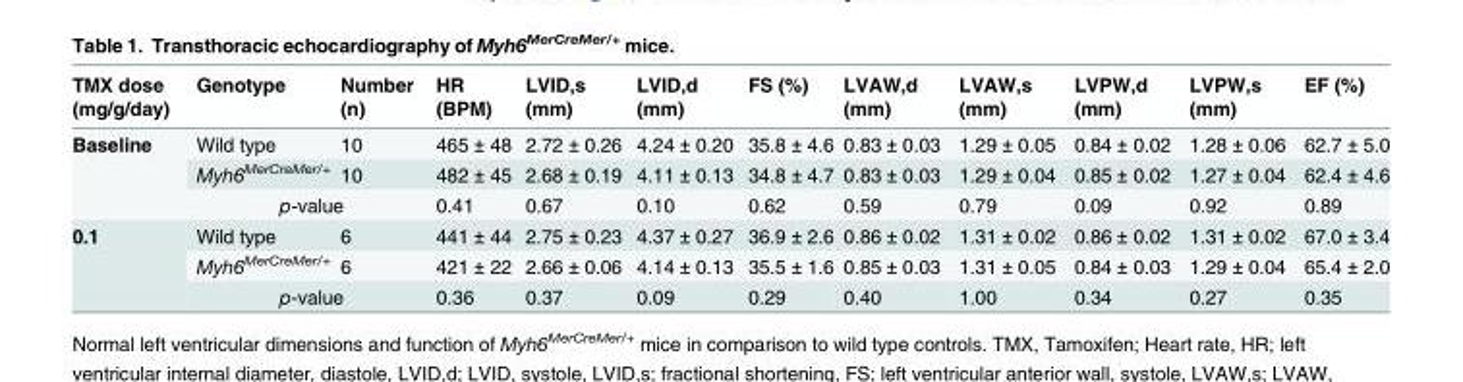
<table><thead><tr><td>TMX dose (mg/g/day)</td><td>Genotype</td><td>Number (n)</td><td>HR (BPM)</td><td>LVID,s (mm)</td><td>LVID,d (mm)</td><td>FS (%)</td><td>LVAW,d (mm)</td><td>LVAW,s (mm)</td><td>LVPW,d (mm)</td><td>LVPW,s (mm)</td><td>EF (%)</td></tr></thead><tbody><tr><td rowspan="3">Baseline</td><td>Wild type</td><td>10</td><td>465 ± 48</td><td>2.72 ± 0.26</td><td>4.24 ± 0.20</td><td>35.8 ± 4.6</td><td>0.83 ± 0.03</td><td>1.29 ± 0.05</td><td>0.84 ± 0.02</td><td>1.28 ± 0.06</td><td>62.7 ± 5.0</td></tr><tr><td>Myh6<sup>MerCreMer/+</sup></td><td>10</td><td>482 ± 45</td><td>2.68 ± 0.19</td><td>4.11 ± 0.13</td><td>34.8 ± 4.7</td><td>0.83 ± 0.03</td><td>1.29 ± 0.04</td><td>0.85 ± 0.02</td><td>1.27 ± 0.04</td><td>62.4 ± 4.6</td></tr><tr><td colspan="2">p-value</td><td>0.41</td><td>0.67</td><td>0.10</td><td>0.62</td><td>0.59</td><td>0.79</td><td>0.09</td><td>0.92</td><td>0.89</td></tr><tr><td rowspan="3">0.1</td><td>Wild type</td><td>6</td><td>441 ± 44</td><td>2.75 ± 0.23</td><td>4.37 ± 0.27</td><td>36.9 ± 2.6</td><td>0.86 ± 0.02</td><td>1.31 ± 0.02</td><td>0.86 ± 0.02</td><td>1.31 ± 0.02</td><td>67.0 ± 3.4</td></tr><tr><td>Myh6<sup>MerCreMer/+</sup></td><td>6</td><td>421 ± 22</td><td>2.66 ± 0.06</td><td>4.14 ± 0.13</td><td>35.5 ± 1.6</td><td>0.85 ± 0.03</td><td>1.31 ± 0.05</td><td>0.84 ± 0.03</td><td>1.29 ± 0.04</td><td>65.4 ± 2.0</td></tr><tr><td colspan="2">p-value</td><td>0.36</td><td>0.37</td><td>0.09</td><td>0.29</td><td>0.40</td><td>1.00</td><td>0.34</td><td>0.27</td><td>0.35</td></tr></tbody></table>